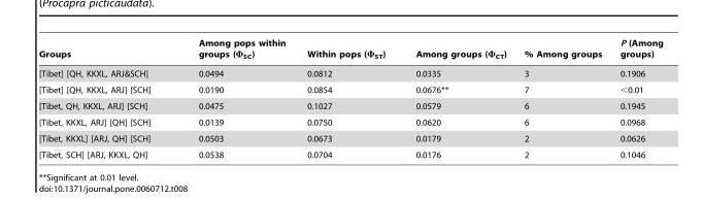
<table><thead><tr><td>Groups</td><td>Among pops within groups (Φ<sub>SC</sub>)</td><td>Within pops (Φ<sub>ST</sub>)</td><td>Among groups (Φ<sub>CT</sub>)</td><td>% Among groups</td><td>P (Among groups)</td></tr></thead><tbody><tr><td>[Tibet] [QH, KKXL, ARJ&amp;SCH]</td><td>0.0494</td><td>0.0812</td><td>0.0335</td><td>3</td><td>0.1906</td></tr><tr><td>[Tibet] [QH, KKXL, ARJ] [SCH]</td><td>0.0190</td><td>0.0854</td><td>0.0676**</td><td>7</td><td>&lt;0.01</td></tr><tr><td>[Tibet, QH, KKXL, ARJ] [SCH]</td><td>0.0475</td><td>0.1027</td><td>0.0579</td><td>6</td><td>0.1945</td></tr><tr><td>[Tibet, KKXL, ARJ] [QH] [SCH]</td><td>0.0139</td><td>0.0750</td><td>0.0620</td><td>6</td><td>0.0968</td></tr><tr><td>[Tibet, KKXL] [ARJ, QH] [SCH]</td><td>0.0503</td><td>0.0673</td><td>0.0179</td><td>2</td><td>0.0626</td></tr><tr><td>[Tibet, SCH] [ARJ, KKXL, QH]</td><td>0.0538</td><td>0.0704</td><td>0.0176</td><td>2</td><td>0.1046</td></tr></tbody></table>